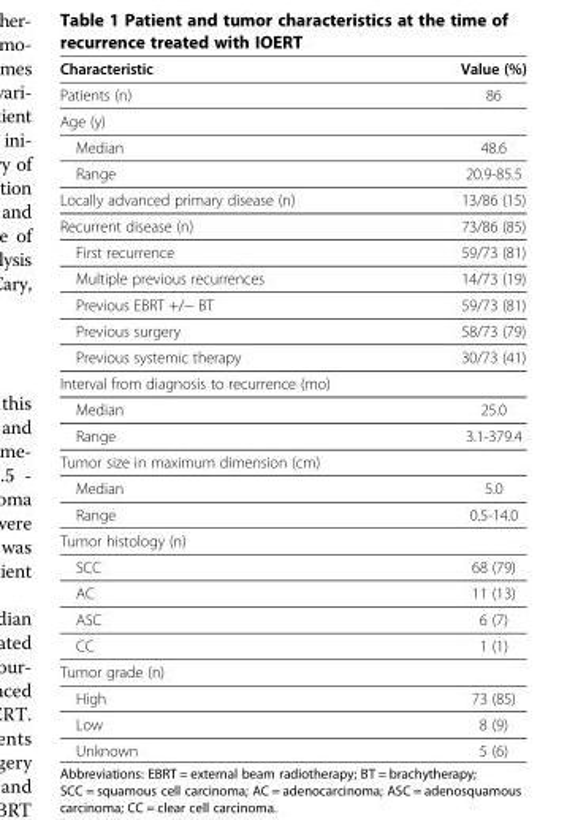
<table><thead><tr><td>Characteristic</td><td>Value (%)</td></tr></thead><tbody><tr><td>Patients (n)</td><td>86</td></tr><tr><td colspan="2">Age (y)</td></tr><tr><td>Median</td><td>48.6</td></tr><tr><td>Range</td><td>20.9-85.5</td></tr><tr><td>Locally advanced primary disease (n)</td><td>13/86 (15)</td></tr><tr><td>Recurrent disease (n)</td><td>73/86 (85)</td></tr><tr><td>First recurrence</td><td>59/73 (81)</td></tr><tr><td>Multiple previous recurrences</td><td>14/73 (19)</td></tr><tr><td>Previous EBRT +/− BT</td><td>59/73 (81)</td></tr><tr><td>Previous surgery</td><td>58/73 (79)</td></tr><tr><td>Previous systemic therapy</td><td>30/73 (41)</td></tr><tr><td colspan="2">Interval from diagnosis to recurrence (mo)</td></tr><tr><td>Median</td><td>25.0</td></tr><tr><td>Range</td><td>3.1-379.4</td></tr><tr><td colspan="2">Tumor size in maximum dimension (cm)</td></tr><tr><td>Median</td><td>5.0</td></tr><tr><td>Range</td><td>0.5-14.0</td></tr><tr><td colspan="2">Tumor histology (n)</td></tr><tr><td>SCC</td><td>68 (79)</td></tr><tr><td>AC</td><td>11 (13)</td></tr><tr><td>ASC</td><td>6 (7)</td></tr><tr><td>CC</td><td>1 (1)</td></tr><tr><td colspan="2">Tumor grade (n)</td></tr><tr><td>High</td><td>73 (85)</td></tr><tr><td>Low</td><td>8 (9)</td></tr><tr><td>Unknown</td><td>5 (6)</td></tr></tbody></table>